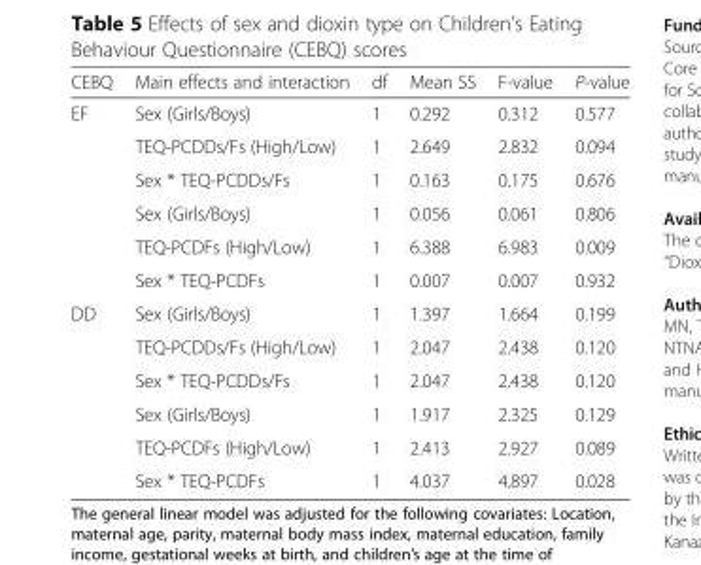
<table><thead><tr><td>CEBQ</td><td>Main effects and interaction</td><td>df</td><td>Mean SS</td><td>F-value</td><td>P-value</td></tr></thead><tbody><tr><td rowspan="6">EF</td><td>Sex (Girls/Boys)</td><td>1</td><td>0.292</td><td>0.312</td><td>0.577</td></tr><tr><td>TEQ-PCDDs/Fs (High/Low)</td><td>1</td><td>2.649</td><td>2.832</td><td>0.094</td></tr><tr><td>Sex * TEQ-PCDDs/Fs</td><td>1</td><td>0.163</td><td>0.175</td><td>0.676</td></tr><tr><td>Sex (Girls/Boys)</td><td>1</td><td>0.056</td><td>0.061</td><td>0.806</td></tr><tr><td>TEQ-PCDFs (High/Low)</td><td>1</td><td>6.388</td><td>6.983</td><td>0.009</td></tr><tr><td>Sex * TEQ-PCDFs</td><td>1</td><td>0.007</td><td>0.007</td><td>0.932</td></tr><tr><td rowspan="6">DD</td><td>Sex (Girls/Boys)</td><td>1</td><td>1.397</td><td>1.664</td><td>0.199</td></tr><tr><td>TEQ-PCDDs/Fs (High/Low)</td><td>1</td><td>2.047</td><td>2.438</td><td>0.120</td></tr><tr><td>Sex * TEQ-PCDDs/Fs</td><td>1</td><td>2.047</td><td>2.438</td><td>0.120</td></tr><tr><td>Sex (Girls/Boys)</td><td>1</td><td>1.917</td><td>2.325</td><td>0.129</td></tr><tr><td>TEQ-PCDFs (High/Low)</td><td>1</td><td>2.413</td><td>2.927</td><td>0.089</td></tr><tr><td>Sex * TEQ-PCDFs</td><td>1</td><td>4.037</td><td>4.897</td><td>0.028</td></tr></tbody></table>